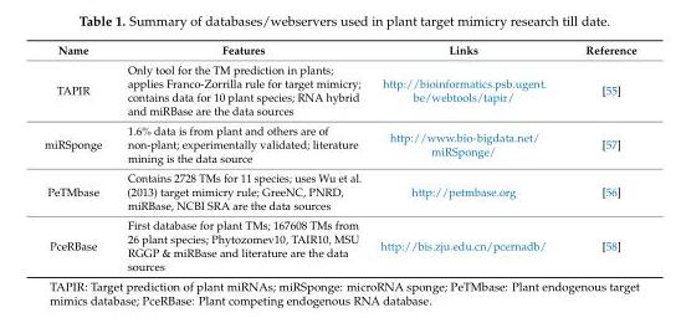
<table><thead><tr><td>Name</td><td>Features</td><td>Links</td><td>Reference</td></tr></thead><tbody><tr><td>TAPIR</td><td>Only tool for the TM prediction in plants; applies Franco-Zorrilla rule for target mimicry; contains data for 10 plant species; RNA hybrid and miRBase are the data sources</td><td>http://bioinformatics.psb.ugent. be/webtools/tapir/</td><td>[55]</td></tr><tr><td>miRSponge</td><td>1.6% data is from plant and others are of non-plant; experimentally validated; literature mining is the data source</td><td>http://www.bio-bigdata.net/ miRSponge/</td><td>[57]</td></tr><tr><td>PeTMbase</td><td>Contains 2728 TMs for 11 species; uses Wu et al. (2013) target mimicry rule; GreeNC, PNRD, miRBase, NCBI SRA are the data sources</td><td>http://petmbase.org</td><td>[56]</td></tr><tr><td>PceRBase</td><td>First database for plant TMs; 167608 TMs from 26 plant species; Phytozomev10, TAIR10, MSU RGGP &amp; miRBase and literature are the data sources</td><td>http://bis.zju.edu.cn/pcernadb/</td><td>[58]</td></tr></tbody></table>